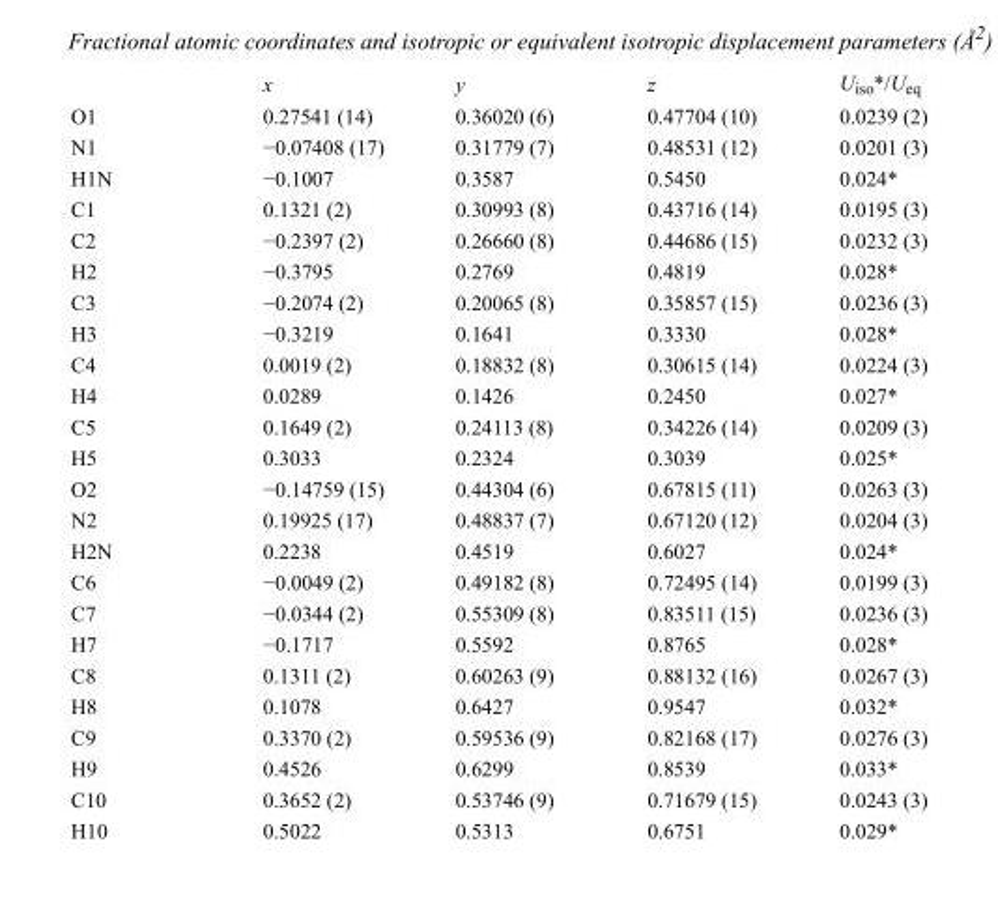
<table><thead><tr><td></td><td>x</td><td>y</td><td>z</td><td>U<sub>iso</sub>*/U<sub>eq</sub></td></tr></thead><tbody><tr><td>O1</td><td>0.27541 (14)</td><td>0.36020 (6)</td><td>0.47704 (10)</td><td>0.0239 (2)</td></tr><tr><td>N1</td><td>−0.07408 (17)</td><td>0.31779 (7)</td><td>0.48531 (12)</td><td>0.0201 (3)</td></tr><tr><td>H1N</td><td>−0.1007</td><td>0.3587</td><td>0.5450</td><td>0.024*</td></tr><tr><td>C1</td><td>0.1321 (2)</td><td>0.30993 (8)</td><td>0.43716 (14)</td><td>0.0195 (3)</td></tr><tr><td>C2</td><td>−0.2397 (2)</td><td>0.26660 (8)</td><td>0.44686 (15)</td><td>0.0232 (3)</td></tr><tr><td>H2</td><td>−0.3795</td><td>0.2769</td><td>0.4819</td><td>0.028*</td></tr><tr><td>C3</td><td>−0.2074 (2)</td><td>0.20065 (8)</td><td>0.35857 (15)</td><td>0.0236 (3)</td></tr><tr><td>H3</td><td>−0.3219</td><td>0.1641</td><td>0.3330</td><td>0.028*</td></tr><tr><td>C4</td><td>0.0019 (2)</td><td>0.18832 (8)</td><td>0.30615 (14)</td><td>0.0224 (3)</td></tr><tr><td>H4</td><td>0.0289</td><td>0.1426</td><td>0.2450</td><td>0.027*</td></tr><tr><td>C5</td><td>0.1649 (2)</td><td>0.24113 (8)</td><td>0.34226 (14)</td><td>0.0209 (3)</td></tr><tr><td>H5</td><td>0.3033</td><td>0.2324</td><td>0.3039</td><td>0.025*</td></tr><tr><td>O2</td><td>−0.14759 (15)</td><td>0.44304 (6)</td><td>0.67815 (11)</td><td>0.0263 (3)</td></tr><tr><td>N2</td><td>0.19925 (17)</td><td>0.48837 (7)</td><td>0.67120 (12)</td><td>0.0204 (3)</td></tr><tr><td>H2N</td><td>0.2238</td><td>0.4519</td><td>0.6027</td><td>0.024*</td></tr><tr><td>C6</td><td>−0.0049 (2)</td><td>0.49182 (8)</td><td>0.72495 (14)</td><td>0.0199 (3)</td></tr><tr><td>C7</td><td>−0.0344 (2)</td><td>0.55309 (8)</td><td>0.83511 (15)</td><td>0.0236 (3)</td></tr><tr><td>H7</td><td>−0.1717</td><td>0.5592</td><td>0.8765</td><td>0.028*</td></tr><tr><td>C8</td><td>0.1311 (2)</td><td>0.60263 (9)</td><td>0.88132 (16)</td><td>0.0267 (3)</td></tr><tr><td>H8</td><td>0.1078</td><td>0.6427</td><td>0.9547</td><td>0.032*</td></tr><tr><td>C9</td><td>0.3370 (2)</td><td>0.59536 (9)</td><td>0.82168 (17)</td><td>0.0276 (3)</td></tr><tr><td>H9</td><td>0.4526</td><td>0.6299</td><td>0.8539</td><td>0.033*</td></tr><tr><td>C10</td><td>0.3652 (2)</td><td>0.53746 (9)</td><td>0.71679 (15)</td><td>0.0243 (3)</td></tr><tr><td>H10</td><td>0.5022</td><td>0.5313</td><td>0.6751</td><td>0.029*</td></tr></tbody></table>